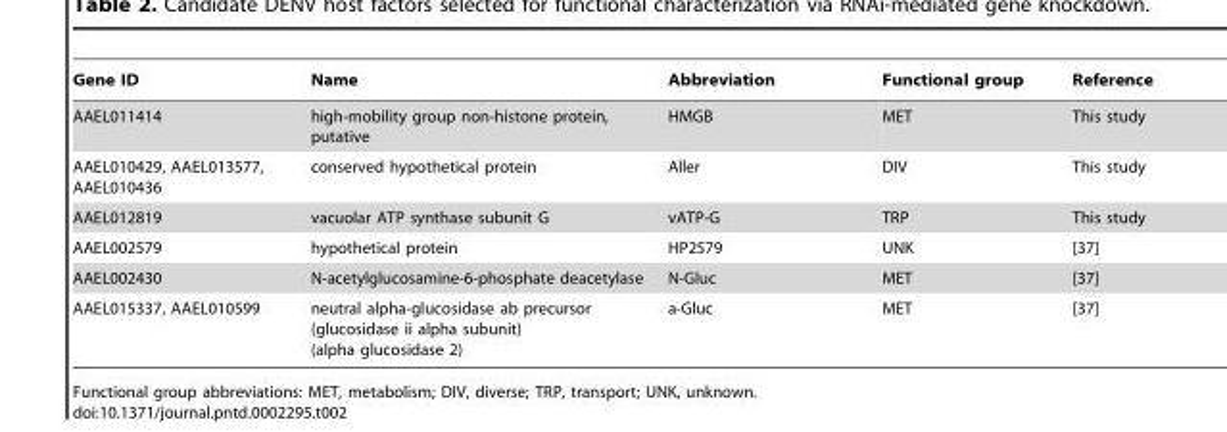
<table><thead><tr><td>Gene ID</td><td>Name</td><td>Abbreviation</td><td>Functional group</td><td>Reference</td></tr></thead><tbody><tr><td>AAEL011414</td><td>high-mobility group non-histone protein, putative</td><td>HMGB</td><td>MET</td><td>This study</td></tr><tr><td>AAEL010429, AAEL013577, AAEL010436</td><td>conserved hypothetical protein</td><td>Aller</td><td>DIV</td><td>This study</td></tr><tr><td>AAEL012819</td><td>vacuolar ATP synthase subunit G</td><td>vATP-G</td><td>TRP</td><td>This study</td></tr><tr><td>AAEL002579</td><td>hypothetical protein</td><td>HP2579</td><td>UNK</td><td>[37]</td></tr><tr><td>AAEL002430</td><td>N-acetylglucosamine-6-phosphate deacetylase</td><td>N-Gluc</td><td>MET</td><td>[37]</td></tr><tr><td>AAEL015337, AAEL010599</td><td>neutral alpha-glucosidase ab precursor (glucosidase ii alpha subunit) (alpha glucosidase 2)</td><td>a-Gluc</td><td>MET</td><td>[37]</td></tr></tbody></table>